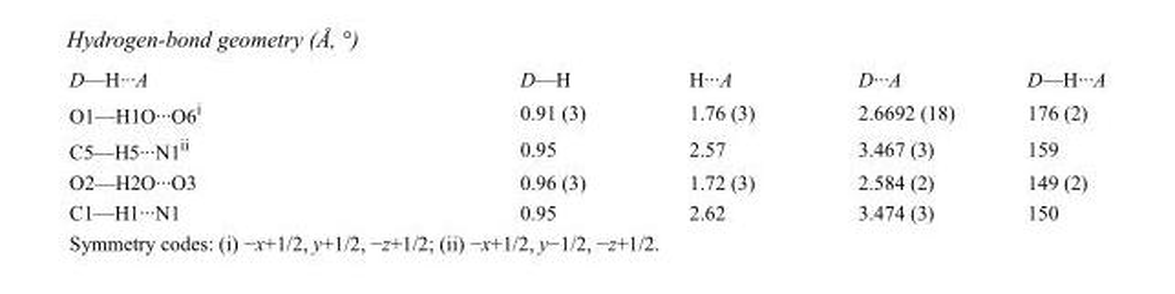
<table><tbody><tr><td>D—H···A</td><td>D—H</td><td>H···A</td><td>D···A</td><td>D—H···A</td></tr><tr><td>O1—H1O···O6<sup>i</sup></td><td>0.91 (3)</td><td>1.76 (3)</td><td>2.6692 (18)</td><td>176 (2)</td></tr><tr><td>C5—H5···N1<sup>ii</sup></td><td>0.95</td><td>2.57</td><td>3.467 (3)</td><td>159</td></tr><tr><td>O2—H2O···O3</td><td>0.96 (3)</td><td>1.72 (3)</td><td>2.584 (2)</td><td>149 (2)</td></tr><tr><td>C1—H1···N1</td><td>0.95</td><td>2.62</td><td>3.474 (3)</td><td>150</td></tr></tbody></table>